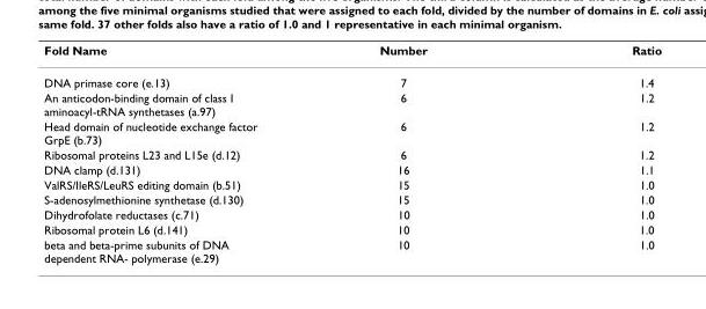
<table><thead><tr><td>Fold Name</td><td>Number</td><td>Ratio</td></tr></thead><tbody><tr><td>DNA primase core (e.13)</td><td>7</td><td>1.4</td></tr><tr><td>An anticodon-binding domain of class I aminoacyl-tRNA synthetases (a.97)</td><td>6</td><td>1.2</td></tr><tr><td>Head domain of nucleotide exchange factor GrpE (b.73)</td><td>6</td><td>1.2</td></tr><tr><td>Ribosomal proteins L23 and L15e (d.12)</td><td>6</td><td>1.2</td></tr><tr><td>DNA clamp (d.131)</td><td>16</td><td>1.1</td></tr><tr><td>ValRS/IleRS/LeuRS editing domain (b.51)</td><td>15</td><td>1.0</td></tr><tr><td>S-adenosylmethionine synthetase (d.130)</td><td>15</td><td>1.0</td></tr><tr><td>Dihydrofolate reductases (c.71)</td><td>10</td><td>1.0</td></tr><tr><td>Ribosomal protein L6 (d.141)</td><td>10</td><td>1.0</td></tr><tr><td>beta and beta-prime subunits of DNA dependent RNA- polymerase (e.29)</td><td>10</td><td>1.0</td></tr></tbody></table>